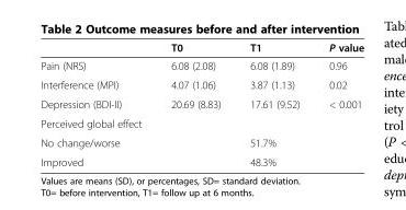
<table><thead><tr><td></td><td>T0</td><td>T1</td><td>P value</td></tr></thead><tbody><tr><td>Pain (NRS)</td><td>6.08 (2.08)</td><td>6.08 (1.89)</td><td>0.96</td></tr><tr><td>Interference (MPI)</td><td>4.07 (1.06)</td><td>3.87 (1.13)</td><td>0.02</td></tr><tr><td>Depression (BDI-II)</td><td>20.69 (8.83)</td><td>17.61 (9.52)</td><td>&lt; 0.001</td></tr><tr><td colspan="4">Perceived global effect</td></tr><tr><td>No change/worse</td><td></td><td>51.7%</td><td></td></tr><tr><td>Improved</td><td></td><td>48.3%</td><td></td></tr></tbody></table>